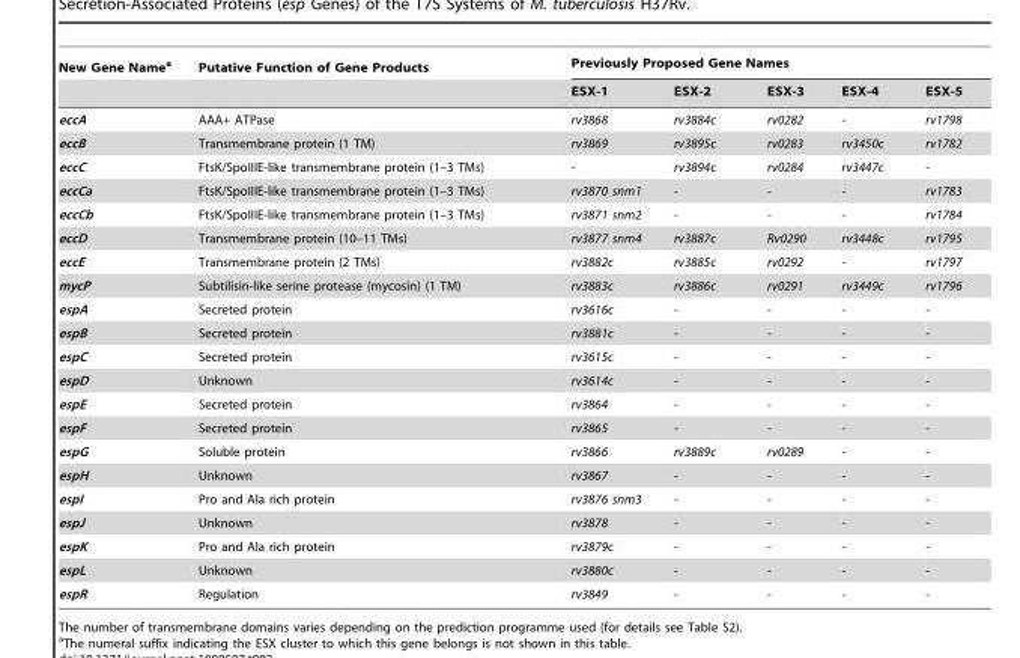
<table><thead><tr><td rowspan="2">New Gene Name<sup>a</sup></td><td rowspan="2">Putative Function of Gene Products</td><td colspan="5">Previously Proposed Gene Names</td></tr><tr><td>ESX-1</td><td>ESX-2</td><td>ESX-3</td><td>ESX-4</td><td>ESX-5</td></tr></thead><tbody><tr><td>eccA</td><td>AAA+ ATPase</td><td>rv3868</td><td>rv3884c</td><td>rv0282</td><td>-</td><td>rv1798</td></tr><tr><td>eccB</td><td>Transmembrane protein (1 TM)</td><td>rv3869</td><td>rv3895c</td><td>rv0283</td><td>rv3450c</td><td>rv1782</td></tr><tr><td>eccC</td><td>FtsK/SpoIIIE-like transmembrane protein (1–3 TMs)</td><td>-</td><td>rv3894c</td><td>rv0284</td><td>rv3447c</td><td>-</td></tr><tr><td>eccCa</td><td>FtsK/SpoIIIE-like transmembrane protein (1–3 TMs)</td><td>rv3870 snm1</td><td>-</td><td>-</td><td>-</td><td>rv1783</td></tr><tr><td>eccCb</td><td>FtsK/SpoIIIE-like transmembrane protein (1–3 TMs)</td><td>rv3871 snm2</td><td>-</td><td>-</td><td>-</td><td>rv1784</td></tr><tr><td>eccD</td><td>Transmembrane protein (10–11 TMs)</td><td>rv3877 snm4</td><td>rv3887c</td><td>Rv0290</td><td>rv3448c</td><td>rv1795</td></tr><tr><td>eccE</td><td>Transmembrane protein (2 TMs)</td><td>rv3882c</td><td>rv3885c</td><td>rv0292</td><td>-</td><td>rv1797</td></tr><tr><td>mycP</td><td>Subtilisin-like serine protease (mycosin) (1 TM)</td><td>rv3883c</td><td>rv3886c</td><td>rv0291</td><td>rv3449c</td><td>rv1796</td></tr><tr><td>espA</td><td>Secreted protein</td><td>rv3616c</td><td>-</td><td>-</td><td>-</td><td>-</td></tr><tr><td>espB</td><td>Secreted protein</td><td>rv3881c</td><td>-</td><td>-</td><td>-</td><td>-</td></tr><tr><td>espC</td><td>Secreted protein</td><td>rv3615c</td><td>-</td><td>-</td><td>-</td><td>-</td></tr><tr><td>espD</td><td>Unknown</td><td>rv3614c</td><td>-</td><td>-</td><td>-</td><td>-</td></tr><tr><td>espE</td><td>Secreted protein</td><td>rv3864</td><td>-</td><td>-</td><td>-</td><td>-</td></tr><tr><td>espF</td><td>Secreted protein</td><td>rv3865</td><td>-</td><td>-</td><td>-</td><td>-</td></tr><tr><td>espG</td><td>Soluble protein</td><td>rv3866</td><td>rv3889c</td><td>rv0289</td><td>-</td><td>-</td></tr><tr><td>espH</td><td>Unknown</td><td>rv3867</td><td>-</td><td>-</td><td>-</td><td>-</td></tr><tr><td>espI</td><td>Pro and Ala rich protein</td><td>rv3876 snm3</td><td>-</td><td>-</td><td>-</td><td>-</td></tr><tr><td>espJ</td><td>Unknown</td><td>rv3878</td><td>-</td><td>-</td><td>-</td><td>-</td></tr><tr><td>espK</td><td>Pro and Ala rich protein</td><td>rv3879c</td><td>-</td><td>-</td><td>-</td><td>-</td></tr><tr><td>espL</td><td>Unknown</td><td>rv3880c</td><td>-</td><td>-</td><td>-</td><td>-</td></tr><tr><td>espR</td><td>Regulation</td><td>rv3849</td><td>-</td><td>-</td><td>-</td><td>-</td></tr></tbody></table>